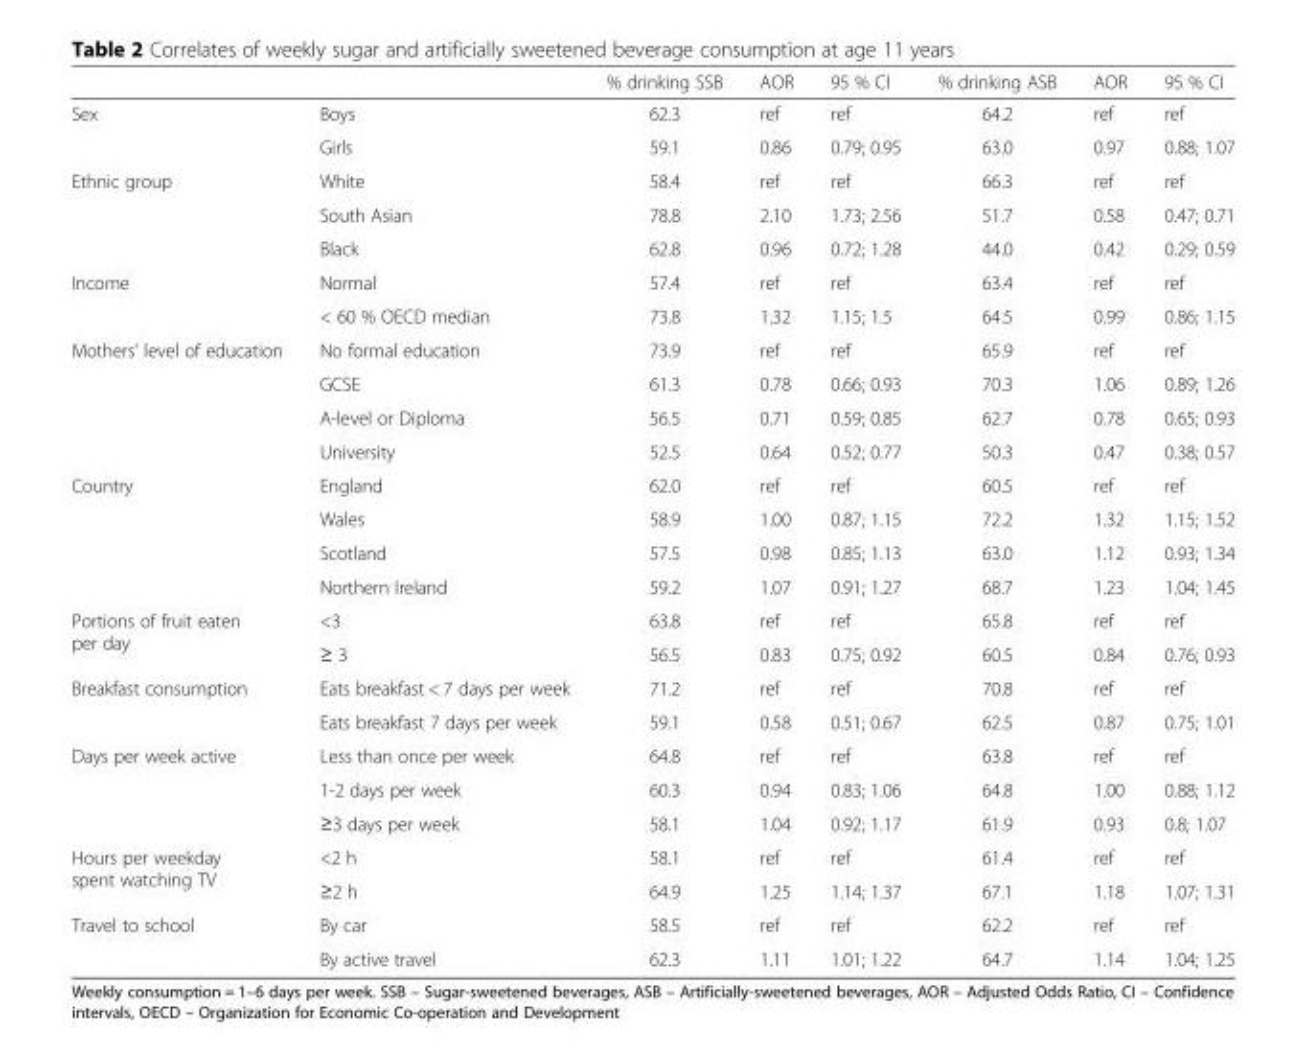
<table><thead><tr><td></td><td></td><td>% drinking SSB</td><td>AOR</td><td>95 % CI</td><td>% drinking ASB</td><td>AOR</td><td>95 % CI</td></tr></thead><tbody><tr><td rowspan="2">Sex</td><td>Boys</td><td>62.3</td><td>ref</td><td>ref</td><td>64.2</td><td>ref</td><td>ref</td></tr><tr><td>Girls</td><td>59.1</td><td>0.86</td><td>0.79; 0.95</td><td>63.0</td><td>0.97</td><td>0.88; 1.07</td></tr><tr><td rowspan="3">Ethnic group</td><td>White</td><td>58.4</td><td>ref</td><td>ref</td><td>66.3</td><td>ref</td><td>ref</td></tr><tr><td>South Asian</td><td>78.8</td><td>2.10</td><td>1.73; 2.56</td><td>51.7</td><td>0.58</td><td>0.47; 0.71</td></tr><tr><td>Black</td><td>62.8</td><td>0.96</td><td>0.72; 1.28</td><td>44.0</td><td>0.42</td><td>0.29; 0.59</td></tr><tr><td rowspan="2">Income</td><td>Normal</td><td>57.4</td><td>ref</td><td>ref</td><td>63.4</td><td>ref</td><td>ref</td></tr><tr><td>&lt; 60 % OECD median</td><td>73.8</td><td>1.32</td><td>1.15; 1.5</td><td>64.5</td><td>0.99</td><td>0.86; 1.15</td></tr><tr><td rowspan="4">Mothers&#x27; level of education</td><td>No formal education</td><td>73.9</td><td>ref</td><td>ref</td><td>65.9</td><td>ref</td><td>ref</td></tr><tr><td>GCSE</td><td>61.3</td><td>0.78</td><td>0.66; 0.93</td><td>70.3</td><td>1.06</td><td>0.89; 1.26</td></tr><tr><td>A-level or Diploma</td><td>56.5</td><td>0.71</td><td>0.59; 0.85</td><td>62.7</td><td>0.78</td><td>0.65; 0.93</td></tr><tr><td>University</td><td>52.5</td><td>0.64</td><td>0.52; 0.77</td><td>50.3</td><td>0.47</td><td>0.38; 0.57</td></tr><tr><td rowspan="4">Country</td><td>England</td><td>62.0</td><td>ref</td><td>ref</td><td>60.5</td><td>ref</td><td>ref</td></tr><tr><td>Wales</td><td>58.9</td><td>1.00</td><td>0.87; 1.15</td><td>72.2</td><td>1.32</td><td>1.15; 1.52</td></tr><tr><td>Scotland</td><td>57.5</td><td>0.98</td><td>0.85; 1.13</td><td>63.0</td><td>1.12</td><td>0.93; 1.34</td></tr><tr><td>Northern Ireland</td><td>59.2</td><td>1.07</td><td>0.91; 1.27</td><td>68.7</td><td>1.23</td><td>1.04; 1.45</td></tr><tr><td rowspan="2">Portions of fruit eaten per day</td><td>&lt;3</td><td>63.8</td><td>ref</td><td>ref</td><td>65.8</td><td>ref</td><td>ref</td></tr><tr><td>≥ 3</td><td>56.5</td><td>0.83</td><td>0.75; 0.92</td><td>60.5</td><td>0.84</td><td>0.76; 0.93</td></tr><tr><td rowspan="2">Breakfast consumption</td><td>Eats breakfast &lt; 7 days per week</td><td>71.2</td><td>ref</td><td>ref</td><td>70.8</td><td>ref</td><td>ref</td></tr><tr><td>Eats breakfast 7 days per week</td><td>59.1</td><td>0.58</td><td>0.51; 0.67</td><td>62.5</td><td>0.87</td><td>0.75; 1.01</td></tr><tr><td rowspan="3">Days per week active</td><td>Less than once per week</td><td>64.8</td><td>ref</td><td>ref</td><td>63.8</td><td>ref</td><td>ref</td></tr><tr><td>1-2 days per week</td><td>60.3</td><td>0.94</td><td>0.83; 1.06</td><td>64.8</td><td>1.00</td><td>0.88; 1.12</td></tr><tr><td>≥3 days per week</td><td>58.1</td><td>1.04</td><td>0.92; 1.17</td><td>61.9</td><td>0.93</td><td>0.8; 1.07</td></tr><tr><td rowspan="2">Hours per weekday spent watching TV</td><td>&lt;2 h</td><td>58.1</td><td>ref</td><td>ref</td><td>61.4</td><td>ref</td><td>ref</td></tr><tr><td>≥2 h</td><td>64.9</td><td>1.25</td><td>1.14; 1.37</td><td>67.1</td><td>1.18</td><td>1.07; 1.31</td></tr><tr><td rowspan="2">Travel to school</td><td>By car</td><td>58.5</td><td>ref</td><td>ref</td><td>62.2</td><td>ref</td><td>ref</td></tr><tr><td>By active travel</td><td>62.3</td><td>1.11</td><td>1.01; 1.22</td><td>64.7</td><td>1.14</td><td>1.04; 1.25</td></tr></tbody></table>